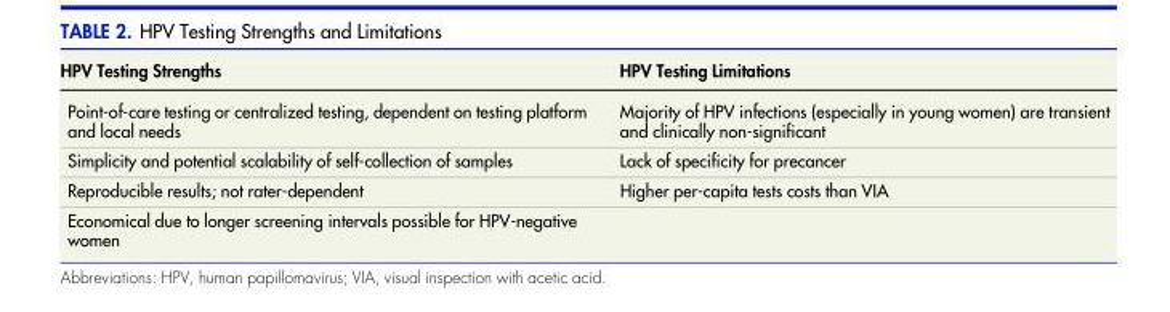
<table><thead><tr><td>HPV Testing Strengths</td><td>HPV Testing Limitations</td></tr></thead><tbody><tr><td>Point-of-care testing or centralized testing, dependent on testing platform and local needs</td><td>Majority of HPV infections (especially in young women) are transient and clinically non-significant</td></tr><tr><td>Simplicity and potential scalability of self-collection of samples</td><td>Lack of specificity for precancer</td></tr><tr><td>Reproducible results; not rater-dependent</td><td>Higher per-capita tests costs than VIA</td></tr><tr><td>Economical due to longer screening intervals possible for HPV-negative women</td><td></td></tr></tbody></table>